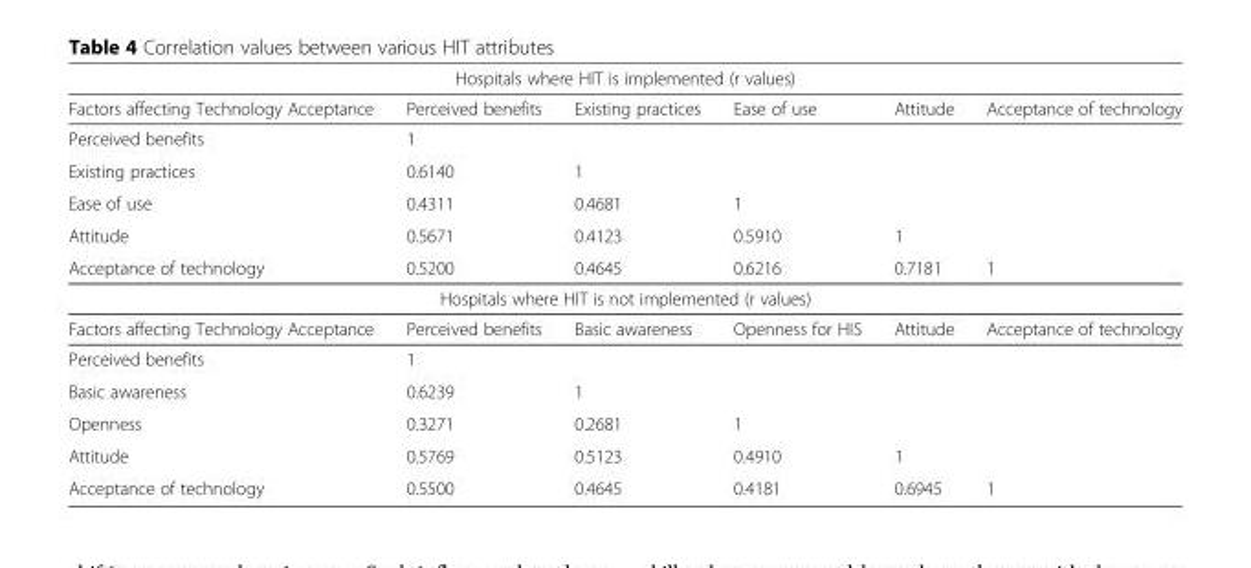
<table><tbody><tr><td colspan="6">Hospitals where HIT is implemented (r values)</td></tr><tr><td>Factors affecting Technology Acceptance</td><td>Perceived benefits</td><td>Existing practices</td><td>Ease of use</td><td>Attitude</td><td>Acceptance of technology</td></tr><tr><td>Perceived benefits</td><td>1</td><td></td><td></td><td></td><td></td></tr><tr><td>Existing practices</td><td>0.6140</td><td>1</td><td></td><td></td><td></td></tr><tr><td>Ease of use</td><td>0.4311</td><td>0.4681</td><td>1</td><td></td><td></td></tr><tr><td>Attitude</td><td>0.5671</td><td>0.4123</td><td>0.5910</td><td>1</td><td></td></tr><tr><td>Acceptance of technology</td><td>0.5200</td><td>0.4645</td><td>0.6216</td><td>0.7181</td><td>1</td></tr><tr><td colspan="6">Hospitals where HIT is not implemented (r values)</td></tr><tr><td>Factors affecting Technology Acceptance</td><td>Perceived benefits</td><td>Basic awareness</td><td>Openness for HIS</td><td>Attitude</td><td>Acceptance of technology</td></tr><tr><td>Perceived benefits</td><td>1</td><td></td><td></td><td></td><td></td></tr><tr><td>Basic awareness</td><td>0.6239</td><td>1</td><td></td><td></td><td></td></tr><tr><td>Openness</td><td>0.3271</td><td>0.2681</td><td>1</td><td></td><td></td></tr><tr><td>Attitude</td><td>0.5769</td><td>0.5123</td><td>0.4910</td><td>1</td><td></td></tr><tr><td>Acceptance of technology</td><td>0.5500</td><td>0.4645</td><td>0.4181</td><td>0.6945</td><td>1</td></tr></tbody></table>